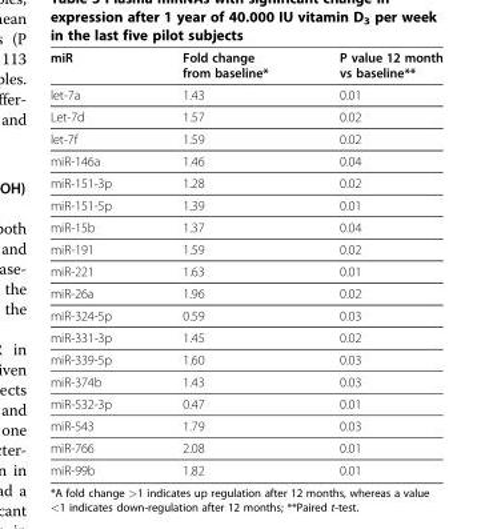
<table><thead><tr><td>miR</td><td>Fold change from baseline*</td><td>P value 12 month vs baseline**</td></tr></thead><tbody><tr><td>let-7a</td><td>1.43</td><td>0.01</td></tr><tr><td>Let-7d</td><td>1.57</td><td>0.02</td></tr><tr><td>let-7f</td><td>1.59</td><td>0.02</td></tr><tr><td>miR-146a</td><td>1.46</td><td>0.04</td></tr><tr><td>miR-151-3p</td><td>1.28</td><td>0.02</td></tr><tr><td>miR-151-5p</td><td>1.39</td><td>0.01</td></tr><tr><td>miR-15b</td><td>1.37</td><td>0.04</td></tr><tr><td>miR-191</td><td>1.59</td><td>0.02</td></tr><tr><td>miR-221</td><td>1.63</td><td>0.01</td></tr><tr><td>miR-26a</td><td>1.96</td><td>0.02</td></tr><tr><td>miR-324-5p</td><td>0.59</td><td>0.03</td></tr><tr><td>miR-331-3p</td><td>1.45</td><td>0.02</td></tr><tr><td>miR-339-5p</td><td>1.60</td><td>0.03</td></tr><tr><td>miR-374b</td><td>1.43</td><td>0.03</td></tr><tr><td>miR-532-3p</td><td>0.47</td><td>0.01</td></tr><tr><td>miR-543</td><td>1.79</td><td>0.03</td></tr><tr><td>miR-766</td><td>2.08</td><td>0.01</td></tr><tr><td>miR-99b</td><td>1.82</td><td>0.01</td></tr></tbody></table>